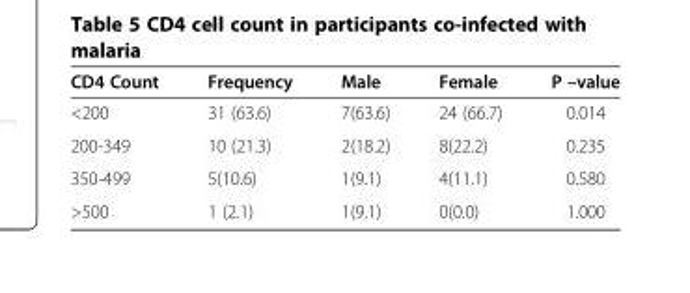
<table><thead><tr><td>CD4 Count</td><td>Frequency</td><td>Male</td><td>Female</td><td>P –value</td></tr></thead><tbody><tr><td>&lt;200</td><td>31 (63.6)</td><td>7(63.6)</td><td>24 (66.7)</td><td>0.014</td></tr><tr><td>200-349</td><td>10 (21.3)</td><td>2(18.2)</td><td>8(22.2)</td><td>0.235</td></tr><tr><td>350-499</td><td>5(10.6)</td><td>1(9.1)</td><td>4(11.1)</td><td>0.580</td></tr><tr><td>&gt;500</td><td>1 (2.1)</td><td>1(9.1)</td><td>0(0.0)</td><td>1.000</td></tr></tbody></table>